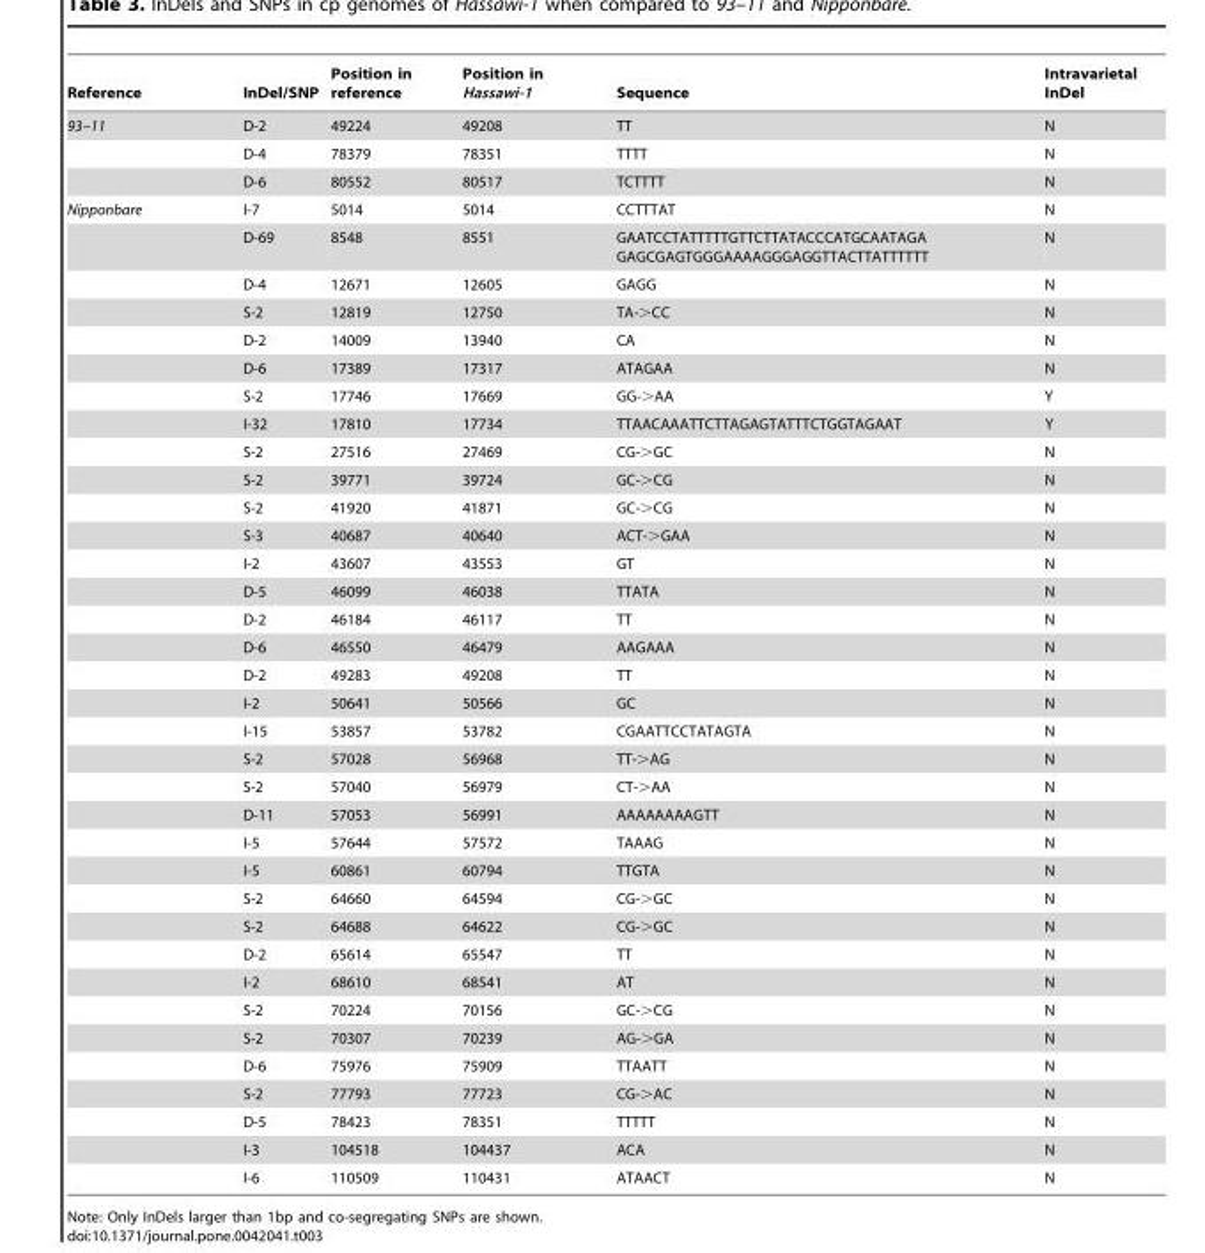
<table><thead><tr><td>Reference</td><td>InDel/SNP</td><td>Position in reference</td><td>Position in Hassawi-1</td><td>Sequence</td><td>Intravarietal InDel</td></tr></thead><tbody><tr><td rowspan="3">93–11</td><td>D-2</td><td>49224</td><td>49208</td><td>TT</td><td>N</td></tr><tr><td>D-4</td><td>78379</td><td>78351</td><td>TTTT</td><td>N</td></tr><tr><td>D-6</td><td>80552</td><td>80517</td><td>TCTTTT</td><td>N</td></tr><tr><td rowspan="35">Nipponbare</td><td>I-7</td><td>5014</td><td>5014</td><td>CCTTTAT</td><td>N</td></tr><tr><td>D-69</td><td>8548</td><td>8551</td><td>GAATCCTATTTTTGTTCTTATACCCATGCAATAGA GAGCGAGTGGGAAAAGGGAGGTTACTTATTTTTT</td><td>N</td></tr><tr><td>D-4</td><td>12671</td><td>12605</td><td>GAGG</td><td>N</td></tr><tr><td>S-2</td><td>12819</td><td>12750</td><td>TA-&gt;CC</td><td>N</td></tr><tr><td>D-2</td><td>14009</td><td>13940</td><td>CA</td><td>N</td></tr><tr><td>D-6</td><td>17389</td><td>17317</td><td>ATAGAA</td><td>N</td></tr><tr><td>S-2</td><td>17746</td><td>17669</td><td>GG-&gt;AA</td><td>Y</td></tr><tr><td>I-32</td><td>17810</td><td>17734</td><td>TTAACAAATTCTTAGAGTATTTCTGGTAGAAT</td><td>Y</td></tr><tr><td>S-2</td><td>27516</td><td>27469</td><td>CG-&gt;GC</td><td>N</td></tr><tr><td>S-2</td><td>39771</td><td>39724</td><td>GC-&gt;CG</td><td>N</td></tr><tr><td>S-2</td><td>41920</td><td>41871</td><td>GC-&gt;CG</td><td>N</td></tr><tr><td>S-3</td><td>40687</td><td>40640</td><td>ACT-&gt;GAA</td><td>N</td></tr><tr><td>I-2</td><td>43607</td><td>43553</td><td>GT</td><td>N</td></tr><tr><td>D-5</td><td>46099</td><td>46038</td><td>TTATA</td><td>N</td></tr><tr><td>D-2</td><td>46184</td><td>46117</td><td>TT</td><td>N</td></tr><tr><td>D-6</td><td>46550</td><td>46479</td><td>AAGAAA</td><td>N</td></tr><tr><td>D-2</td><td>49283</td><td>49208</td><td>TT</td><td>N</td></tr><tr><td>I-2</td><td>50641</td><td>50566</td><td>GC</td><td>N</td></tr><tr><td>I-15</td><td>53857</td><td>53782</td><td>CGAATTCCTATAGTA</td><td>N</td></tr><tr><td>S-2</td><td>57028</td><td>56968</td><td>TT-&gt;AG</td><td>N</td></tr><tr><td>S-2</td><td>57040</td><td>56979</td><td>CT-&gt;AA</td><td>N</td></tr><tr><td>D-11</td><td>57053</td><td>56991</td><td>AAAAAAAAGTT</td><td>N</td></tr><tr><td>I-5</td><td>57644</td><td>57572</td><td>TAAAG</td><td>N</td></tr><tr><td>I-5</td><td>60861</td><td>60794</td><td>TTGTA</td><td>N</td></tr><tr><td>S-2</td><td>64660</td><td>64594</td><td>CG-&gt;GC</td><td>N</td></tr><tr><td>S-2</td><td>64688</td><td>64622</td><td>CG-&gt;GC</td><td>N</td></tr><tr><td>D-2</td><td>65614</td><td>65547</td><td>TT</td><td>N</td></tr><tr><td>I-2</td><td>68610</td><td>68541</td><td>AT</td><td>N</td></tr><tr><td>S-2</td><td>70224</td><td>70156</td><td>GC-&gt;CG</td><td>N</td></tr><tr><td>S-2</td><td>70307</td><td>70239</td><td>AG-&gt;GA</td><td>N</td></tr><tr><td>D-6</td><td>75976</td><td>75909</td><td>TTAATT</td><td>N</td></tr><tr><td>S-2</td><td>77793</td><td>77723</td><td>CG-&gt;AC</td><td>N</td></tr><tr><td>D-5</td><td>78423</td><td>78351</td><td>TTTTT</td><td>N</td></tr><tr><td>I-3</td><td>104518</td><td>104437</td><td>ACA</td><td>N</td></tr><tr><td>I-6</td><td>110509</td><td>110431</td><td>ATAACT</td><td>N</td></tr></tbody></table>